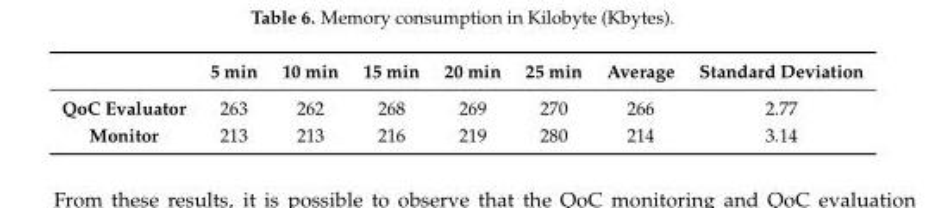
<table><thead><tr><td></td><td>5 min</td><td>10 min</td><td>15 min</td><td>20 min</td><td>25 min</td><td>Average</td><td>Standard Deviation</td></tr></thead><tbody><tr><td>QoC Evaluator</td><td>263</td><td>262</td><td>268</td><td>269</td><td>270</td><td>266</td><td>2.77</td></tr><tr><td>Monitor</td><td>213</td><td>213</td><td>216</td><td>219</td><td>280</td><td>214</td><td>3.14</td></tr></tbody></table>